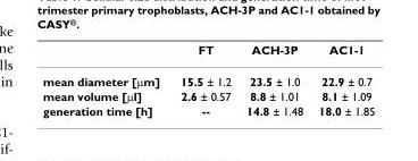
<table><thead><tr><td></td><td>FT</td><td>ACH-3P</td><td>AC1-1</td></tr></thead><tbody><tr><td>mean diameter [μm]</td><td>15.5 ± 1.2</td><td>23.5 ± 1.0</td><td>22.9 ± 0.7</td></tr><tr><td>mean volume [μl]</td><td>2.6 ± 0.57</td><td>8.8 ± 1.01</td><td>8.1 ± 1.09</td></tr><tr><td>generation time [h]</td><td>--</td><td>14.8 ± 1.48</td><td>18.0 ± 1.85</td></tr></tbody></table>